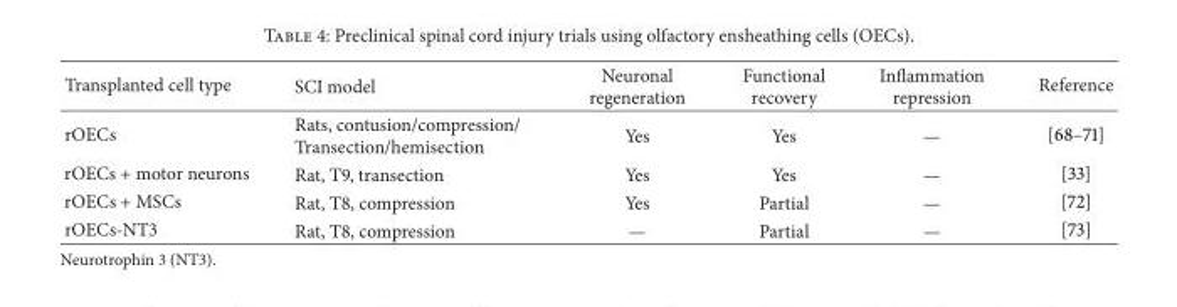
<table><thead><tr><td>Transplanted cell type</td><td>SCI model</td><td>Neuronal regeneration</td><td>Functional recovery</td><td>Inflammation repression</td><td>Reference</td></tr></thead><tbody><tr><td>rOECs</td><td>Rats, contusion/compression/ Transection/hemisection</td><td>Yes</td><td>Yes</td><td>—</td><td>[68–71]</td></tr><tr><td>rOECs + motor neurons</td><td>Rat, T9, transection</td><td>Yes</td><td>Yes</td><td>—</td><td>[33]</td></tr><tr><td>rOECs + MSCs</td><td>Rat, T8, compression</td><td>Yes</td><td>Partial</td><td>—</td><td>[72]</td></tr><tr><td>rOECs-NT3</td><td>Rat, T8, compression</td><td>—</td><td>Partial</td><td>—</td><td>[73]</td></tr></tbody></table>